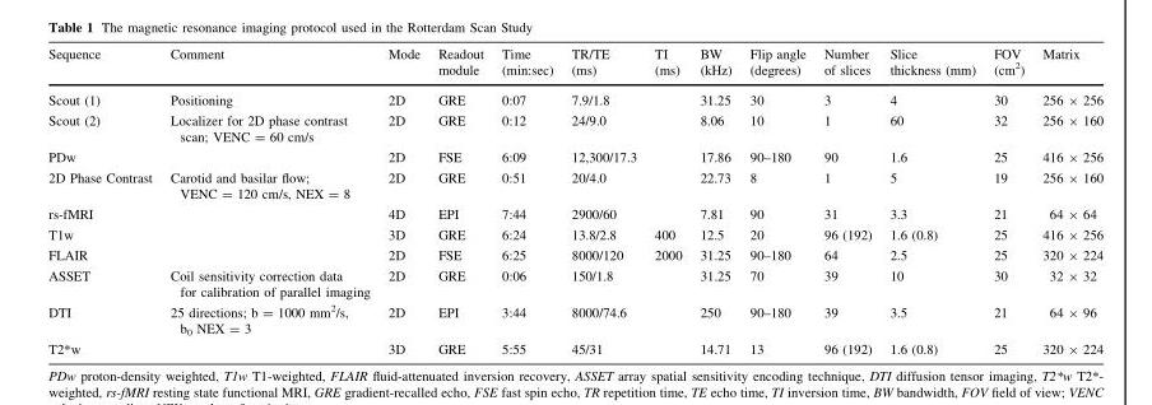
<table><thead><tr><td>Sequence</td><td>Comment</td><td>Mode</td><td>Readout module</td><td>Time (min:sec)</td><td>TR/TE (ms)</td><td>TI (ms)</td><td>BW (kHz)</td><td>Flip angle (degrees)</td><td>Number of slices</td><td>Slice thickness (mm)</td><td>FOV (cm<sup>2</sup>)</td><td>Matrix</td></tr></thead><tbody><tr><td>Scout (1)</td><td>Positioning</td><td>2D</td><td>GRE</td><td>0:07</td><td>7.9/1.8</td><td></td><td>31.25</td><td>30</td><td>3</td><td>4</td><td>30</td><td>256 × 256</td></tr><tr><td>Scout (2)</td><td>Localizer for 2D phase contrast scan; VENC = 60 cm/s</td><td>2D</td><td>GRE</td><td>0:12</td><td>24/9.0</td><td></td><td>8.06</td><td>10</td><td>1</td><td>60</td><td>32</td><td>256 × 160</td></tr><tr><td>PDw</td><td></td><td>2D</td><td>FSE</td><td>6:09</td><td>12,300/17.3</td><td></td><td>17.86</td><td>90–180</td><td>90</td><td>1.6</td><td>25</td><td>416 × 256</td></tr><tr><td>2D Phase Contrast</td><td>Carotid and basilar flow; VENC = 120 cm/s, NEX = 8</td><td>2D</td><td>GRE</td><td>0:51</td><td>20/4.0</td><td></td><td>22.73</td><td>8</td><td>1</td><td>5</td><td>19</td><td>256 × 160</td></tr><tr><td>rs-fMRI</td><td></td><td>4D</td><td>EPI</td><td>7:44</td><td>2900/60</td><td></td><td>7.81</td><td>90</td><td>31</td><td>3.3</td><td>21</td><td>64 × 64</td></tr><tr><td>T1w</td><td></td><td>3D</td><td>GRE</td><td>6:24</td><td>13.8/2.8</td><td>400</td><td>12.5</td><td>20</td><td>96 (192)</td><td>1.6 (0.8)</td><td>25</td><td>416 × 256</td></tr><tr><td>FLAIR</td><td></td><td>2D</td><td>FSE</td><td>6:25</td><td>8000/120</td><td>2000</td><td>31.25</td><td>90–180</td><td>64</td><td>2.5</td><td>25</td><td>320 × 224</td></tr><tr><td>ASSET</td><td>Coil sensitivity correction data for calibration of parallel imaging</td><td>2D</td><td>GRE</td><td>0:06</td><td>150/1.8</td><td></td><td>31.25</td><td>70</td><td>39</td><td>10</td><td>30</td><td>32 × 32</td></tr><tr><td>DTI</td><td>25 directions; b = 1000 mm<sup>2</sup>/s, b<sub>0</sub> NEX = 3</td><td>2D</td><td>EPI</td><td>3:44</td><td>8000/74.6</td><td></td><td>250</td><td>90–180</td><td>39</td><td>3.5</td><td>21</td><td>64 × 96</td></tr><tr><td>T2*w</td><td></td><td>3D</td><td>GRE</td><td>5:55</td><td>45/31</td><td></td><td>14.71</td><td>13</td><td>96 (192)</td><td>1.6 (0.8)</td><td>25</td><td>320 × 224</td></tr></tbody></table>